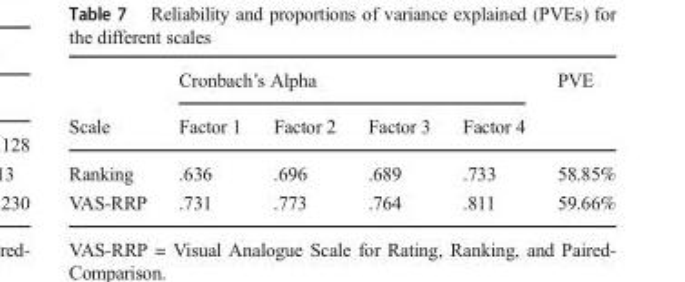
<table><thead><tr><td rowspan="2">Scale</td><td colspan="4">Cronbach’s Alpha</td><td rowspan="2">PVE</td></tr><tr><td>Factor 1</td><td>Factor 2</td><td>Factor 3</td><td>Factor 4</td></tr></thead><tbody><tr><td>Ranking</td><td>.636</td><td>.696</td><td>.689</td><td>.733</td><td>58.85%</td></tr><tr><td>VAS-RRP</td><td>.731</td><td>.773</td><td>.764</td><td>.811</td><td>59.66%</td></tr></tbody></table>